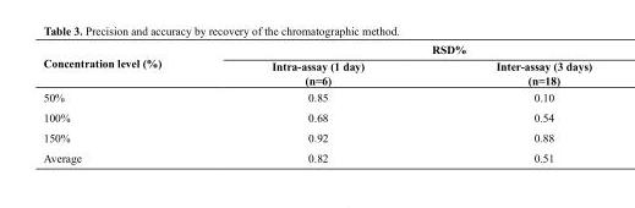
<table><thead><tr><td rowspan="2">Concentration level (%)</td><td colspan="2">RSD%</td></tr><tr><td>Intra-assay (1 day) (n=6)</td><td>Inter-assay (3 days) (n=18)</td></tr></thead><tbody><tr><td>50%</td><td>0.85</td><td>0.10</td></tr><tr><td>100%</td><td>0.68</td><td>0.54</td></tr><tr><td>150%</td><td>0.92</td><td>0.88</td></tr><tr><td>Average</td><td>0.82</td><td>0.51</td></tr></tbody></table>